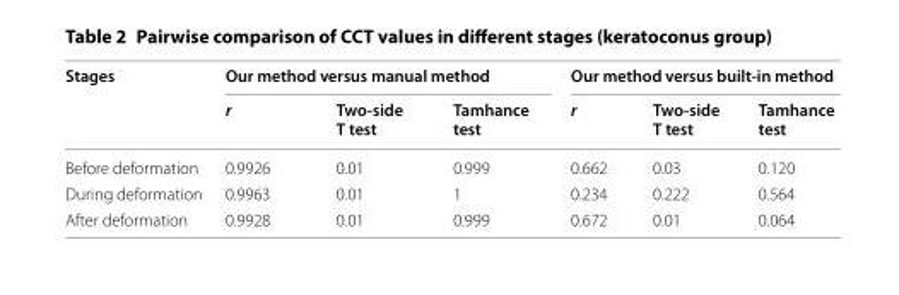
<table><thead><tr><td rowspan="2">Stages</td><td colspan="3">Our method versus manual method</td><td colspan="3">Our method versus built-in method</td></tr><tr><td>r</td><td>Two-side T test</td><td>Tamhance test</td><td>r</td><td>Two-side T test</td><td>Tamhance test</td></tr></thead><tbody><tr><td>Before deformation</td><td>0.9926</td><td>0.01</td><td>0.999</td><td>0.662</td><td>0.03</td><td>0.120</td></tr><tr><td>During deformation</td><td>0.9963</td><td>0.01</td><td>1</td><td>0.234</td><td>0.222</td><td>0.564</td></tr><tr><td>After deformation</td><td>0.9928</td><td>0.01</td><td>0.999</td><td>0.672</td><td>0.01</td><td>0.064</td></tr></tbody></table>